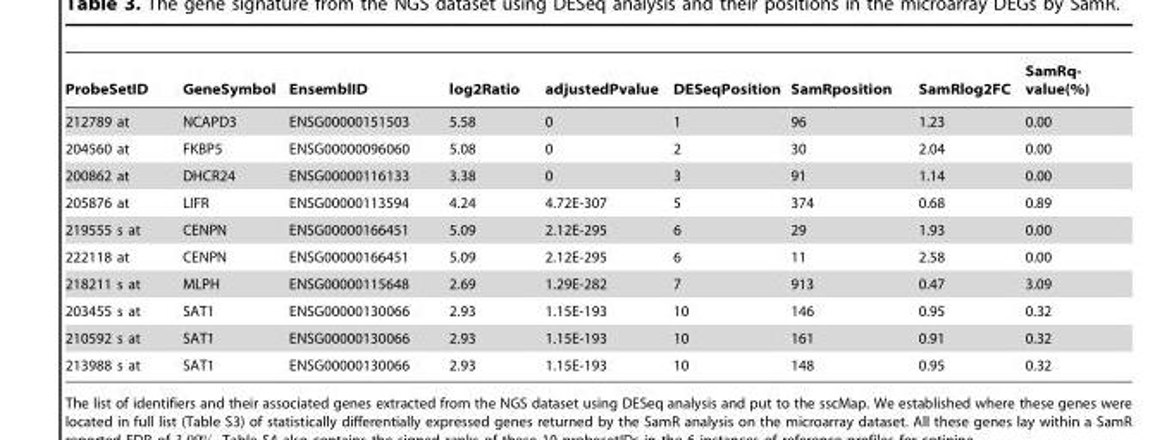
<table><thead><tr><td>ProbeSetID</td><td>GeneSymbol</td><td>EnsemblID</td><td>log2Ratio</td><td>adjustedPvalue</td><td>DESeqPosition</td><td>SamRposition</td><td>SamRlog2FC</td><td>SamRq- value(%)</td></tr></thead><tbody><tr><td>212789 at</td><td>NCAPD3</td><td>ENSG00000151503</td><td>5.58</td><td>0</td><td>1</td><td>96</td><td>1.23</td><td>0.00</td></tr><tr><td>204560 at</td><td>FKBP5</td><td>ENSG00000096060</td><td>5.08</td><td>0</td><td>2</td><td>30</td><td>2.04</td><td>0.00</td></tr><tr><td>200862 at</td><td>DHCR24</td><td>ENSG00000116133</td><td>3.38</td><td>0</td><td>3</td><td>91</td><td>1.14</td><td>0.00</td></tr><tr><td>205876 at</td><td>LIFR</td><td>ENSG00000113594</td><td>4.24</td><td>4.72E-307</td><td>5</td><td>374</td><td>0.68</td><td>0.89</td></tr><tr><td>219555 s at</td><td>CENPN</td><td>ENSG00000166451</td><td>5.09</td><td>2.12E-295</td><td>6</td><td>29</td><td>1.93</td><td>0.00</td></tr><tr><td>222118 at</td><td>CENPN</td><td>ENSG00000166451</td><td>5.09</td><td>2.12E-295</td><td>6</td><td>11</td><td>2.58</td><td>0.00</td></tr><tr><td>218211 s at</td><td>MLPH</td><td>ENSG00000115648</td><td>2.69</td><td>1.29E-282</td><td>7</td><td>913</td><td>0.47</td><td>3.09</td></tr><tr><td>203455 s at</td><td>SAT1</td><td>ENSG00000130066</td><td>2.93</td><td>1.15E-193</td><td>10</td><td>146</td><td>0.95</td><td>0.32</td></tr><tr><td>210592 s at</td><td>SAT1</td><td>ENSG00000130066</td><td>2.93</td><td>1.15E-193</td><td>10</td><td>161</td><td>0.91</td><td>0.32</td></tr><tr><td>213988 s at</td><td>SAT1</td><td>ENSG00000130066</td><td>2.93</td><td>1.15E-193</td><td>10</td><td>148</td><td>0.95</td><td>0.32</td></tr></tbody></table>